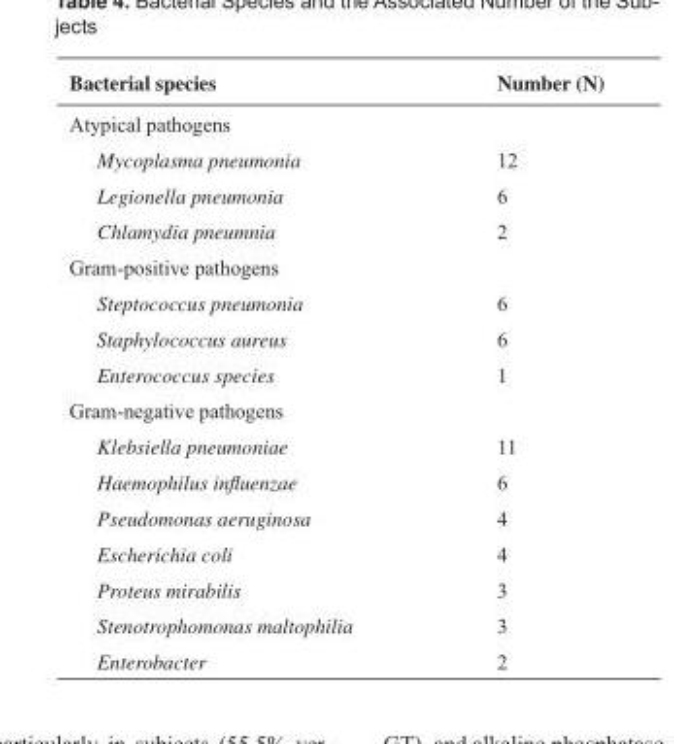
<table><thead><tr><td>Bacterial species</td><td>Number (N)</td></tr></thead><tbody><tr><td colspan="2">Atypical pathogens</td></tr><tr><td>Mycoplasma pneumonia</td><td>12</td></tr><tr><td>Legionella pneumonia</td><td>6</td></tr><tr><td>Chlamydia pneumnia</td><td>2</td></tr><tr><td colspan="2">Gram-positive pathogens</td></tr><tr><td>Steptococcus pneumonia</td><td>6</td></tr><tr><td>Staphylococcus aureus</td><td>6</td></tr><tr><td>Enterococcus species</td><td>1</td></tr><tr><td colspan="2">Gram-negative pathogens</td></tr><tr><td>Klebsiella pneumoniae</td><td>11</td></tr><tr><td>Haemophilus infl uenzae</td><td>6</td></tr><tr><td>Pseudomonas aeruginosa</td><td>4</td></tr><tr><td>Escherichia coli</td><td>4</td></tr><tr><td>Proteus mirabilis</td><td>3</td></tr><tr><td>Stenotrophomonas maltophilia</td><td>3</td></tr><tr><td>Enterobacter</td><td>2</td></tr></tbody></table>